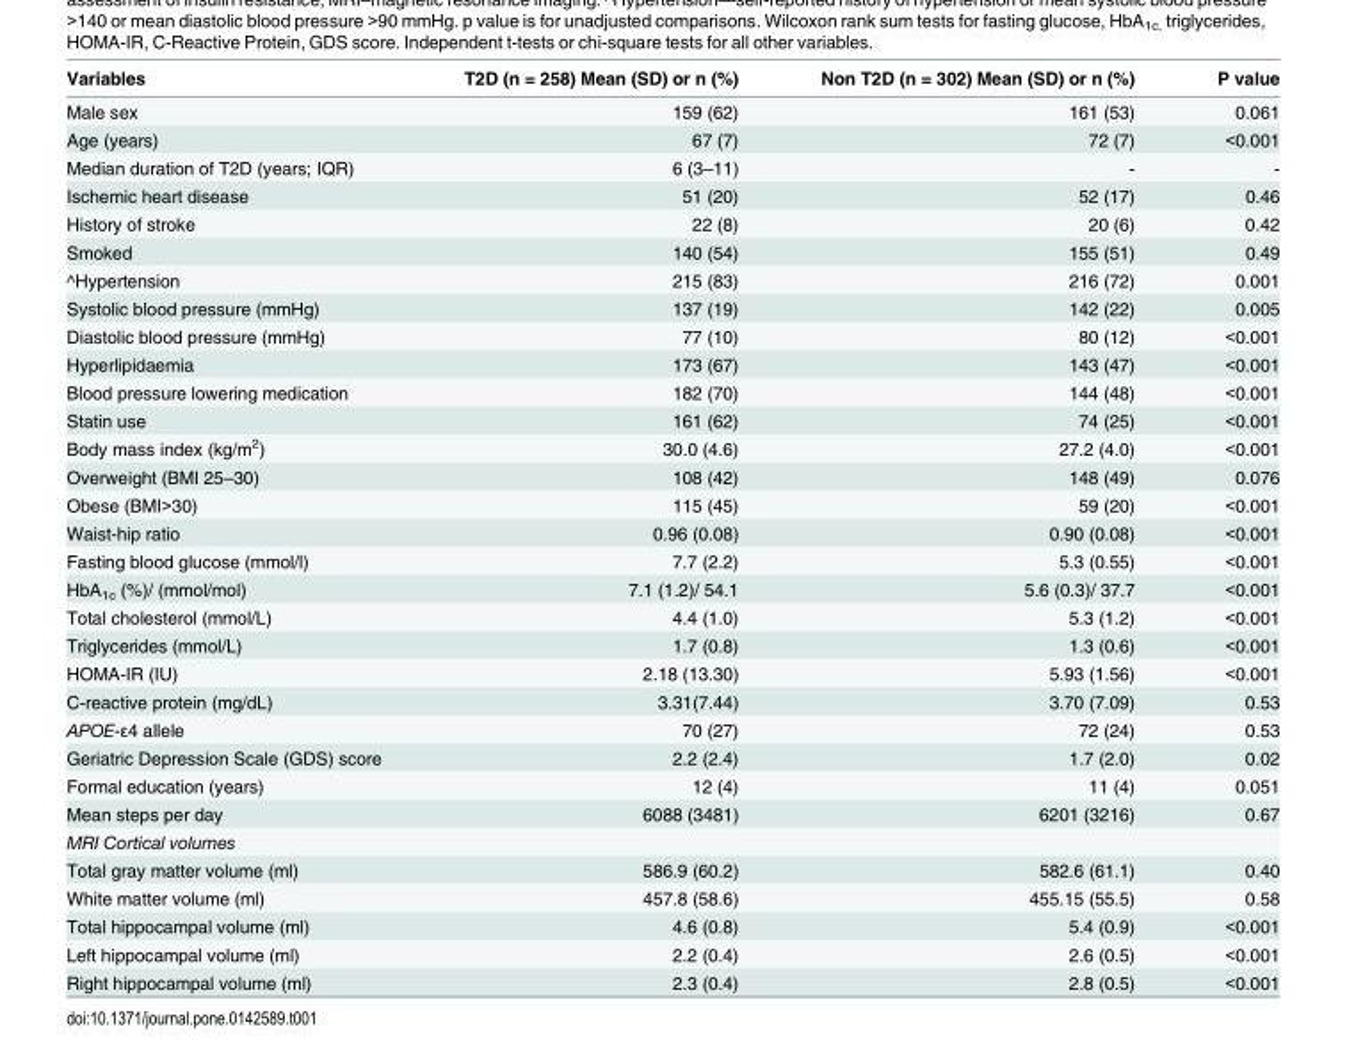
<table><thead><tr><td>Variables</td><td>T2D (n = 258) Mean (SD) or n (%)</td><td>Non T2D (n = 302) Mean (SD) or n (%)</td><td>P value</td></tr></thead><tbody><tr><td>Male sex</td><td>159 (62)</td><td>161 (53)</td><td>0.061</td></tr><tr><td>Age (years)</td><td>67 (7)</td><td>72 (7)</td><td>&lt;0.001</td></tr><tr><td>Median duration of T2D (years; IQR)</td><td>6 (3–11)</td><td>-</td><td>-</td></tr><tr><td>Ischemic heart disease</td><td>51 (20)</td><td>52 (17)</td><td>0.46</td></tr><tr><td>History of stroke</td><td>22 (8)</td><td>20 (6)</td><td>0.42</td></tr><tr><td>Smoked</td><td>140 (54)</td><td>155 (51)</td><td>0.49</td></tr><tr><td>^Hypertension</td><td>215 (83)</td><td>216 (72)</td><td>0.001</td></tr><tr><td>Systolic blood pressure (mmHg)</td><td>137 (19)</td><td>142 (22)</td><td>0.005</td></tr><tr><td>Diastolic blood pressure (mmHg)</td><td>77 (10)</td><td>80 (12)</td><td>&lt;0.001</td></tr><tr><td>Hyperlipidaemia</td><td>173 (67)</td><td>143 (47)</td><td>&lt;0.001</td></tr><tr><td>Blood pressure lowering medication</td><td>182 (70)</td><td>144 (48)</td><td>&lt;0.001</td></tr><tr><td>Statin use</td><td>161 (62)</td><td>74 (25)</td><td>&lt;0.001</td></tr><tr><td>Body mass index (kg/m<sup>2</sup>)</td><td>30.0 (4.6)</td><td>27.2 (4.0)</td><td>&lt;0.001</td></tr><tr><td>Overweight (BMI 25–30)</td><td>108 (42)</td><td>148 (49)</td><td>0.076</td></tr><tr><td>Obese (BMI&gt;30)</td><td>115 (45)</td><td>59 (20)</td><td>&lt;0.001</td></tr><tr><td>Waist-hip ratio</td><td>0.96 (0.08)</td><td>0.90 (0.08)</td><td>&lt;0.001</td></tr><tr><td>Fasting blood glucose (mmol/l)</td><td>7.7 (2.2)</td><td>5.3 (0.55)</td><td>&lt;0.001</td></tr><tr><td>HbA<sub>1c</sub> (%)/ (mmol/mol)</td><td>7.1 (1.2)/ 54.1</td><td>5.6 (0.3)/ 37.7</td><td>&lt;0.001</td></tr><tr><td>Total cholesterol (mmol/L)</td><td>4.4 (1.0)</td><td>5.3 (1.2)</td><td>&lt;0.001</td></tr><tr><td>Triglycerides (mmol/L)</td><td>1.7 (0.8)</td><td>1.3 (0.6)</td><td>&lt;0.001</td></tr><tr><td>HOMA-IR (IU)</td><td>2.18 (13.30)</td><td>5.93 (1.56)</td><td>&lt;0.001</td></tr><tr><td>C-reactive protein (mg/dL)</td><td>3.31(7.44)</td><td>3.70 (7.09)</td><td>0.53</td></tr><tr><td>APOE-ε4 allele</td><td>70 (27)</td><td>72 (24)</td><td>0.53</td></tr><tr><td>Geriatric Depression Scale (GDS) score</td><td>2.2 (2.4)</td><td>1.7 (2.0)</td><td>0.02</td></tr><tr><td>Formal education (years)</td><td>12 (4)</td><td>11 (4)</td><td>0.051</td></tr><tr><td>Mean steps per day</td><td>6088 (3481)</td><td>6201 (3216)</td><td>0.67</td></tr><tr><td colspan="4">MRI Cortical volumes</td></tr><tr><td>Total gray matter volume (ml)</td><td>586.9 (60.2)</td><td>582.6 (61.1)</td><td>0.40</td></tr><tr><td>White matter volume (ml)</td><td>457.8 (58.6)</td><td>455.15 (55.5)</td><td>0.58</td></tr><tr><td>Total hippocampal volume (ml)</td><td>4.6 (0.8)</td><td>5.4 (0.9)</td><td>&lt;0.001</td></tr><tr><td>Left hippocampal volume (ml)</td><td>2.2 (0.4)</td><td>2.6 (0.5)</td><td>&lt;0.001</td></tr><tr><td>Right hippocampal volume (ml)</td><td>2.3 (0.4)</td><td>2.8 (0.5)</td><td>&lt;0.001</td></tr></tbody></table>